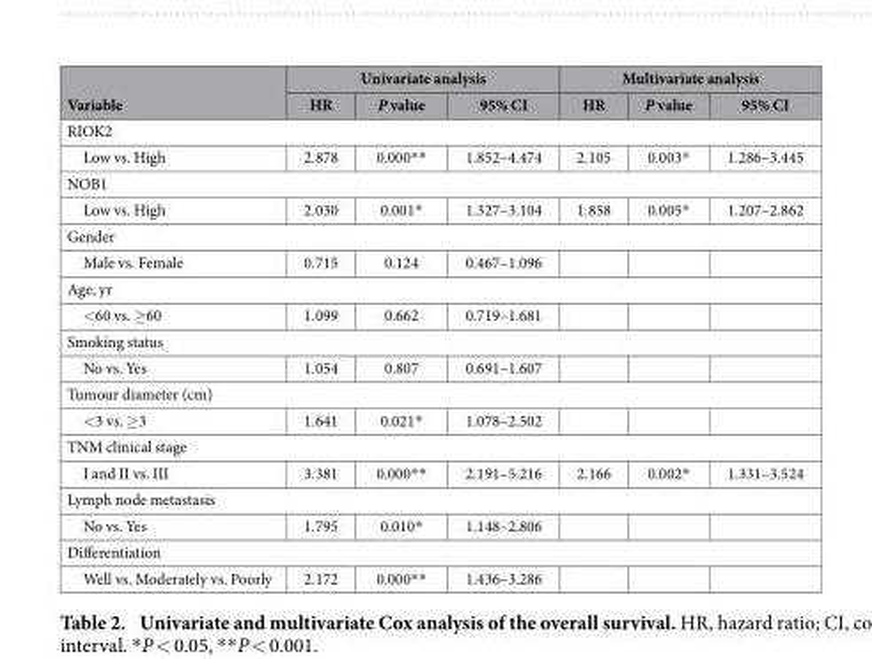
<table><thead><tr><td rowspan="2">Variable</td><td colspan="3">Univariate analysis</td><td colspan="3">Multivariate analysis</td></tr><tr><td>HR</td><td>P value</td><td>95% CI</td><td>HR</td><td>P value</td><td>95% CI</td></tr></thead><tbody><tr><td colspan="7">RIOK2</td></tr><tr><td>Low vs. High</td><td>2.878</td><td>0.000* *</td><td>1.852–4.474</td><td>2.105</td><td>0.003*</td><td>1.286–3.445</td></tr><tr><td colspan="7">NOB1</td></tr><tr><td>Low vs. High</td><td>2.030</td><td>0.001*</td><td>1.327–3.104</td><td>1.858</td><td>0.005*</td><td>1.207–2.862</td></tr><tr><td colspan="7">Gender</td></tr><tr><td>Male vs. Female</td><td>0.715</td><td>0.124</td><td>0.467–1.096</td><td></td><td></td><td></td></tr><tr><td colspan="7">Age, yr</td></tr><tr><td>&lt; 60 vs. ≥ 60</td><td>1.099</td><td>0.662</td><td>0.719–1.681</td><td></td><td></td><td></td></tr><tr><td colspan="7">Smoking status</td></tr><tr><td>No vs. Yes</td><td>1.054</td><td>0.807</td><td>0.691–1.607</td><td></td><td></td><td></td></tr><tr><td colspan="7">Tumour diameter (cm)</td></tr><tr><td>&lt; 3 vs. ≥ 3</td><td>1.641</td><td>0.021*</td><td>1.078–2.502</td><td></td><td></td><td></td></tr><tr><td colspan="7">TNM clinical stage</td></tr><tr><td>I and II vs. III</td><td>3.381</td><td>0.000* *</td><td>2.191–5.216</td><td>2.166</td><td>0.002*</td><td>1.331–3.524</td></tr><tr><td colspan="7">Lymph node metastasis</td></tr><tr><td>No vs. Yes</td><td>1.795</td><td>0.010*</td><td>1.148–2.806</td><td></td><td></td><td></td></tr><tr><td colspan="7">Differentiation</td></tr><tr><td>Well vs. Moderately vs. Poorly</td><td>2.172</td><td>0.000* *</td><td>1.436–3.286</td><td></td><td></td><td></td></tr></tbody></table>